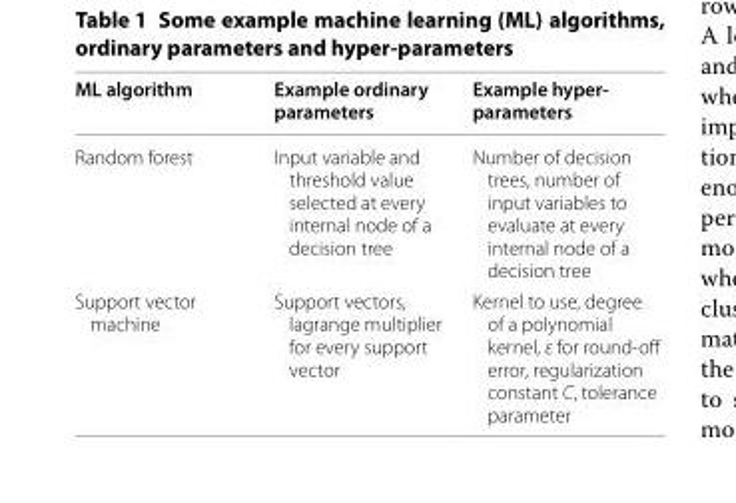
<table><thead><tr><td>ML algorithm</td><td>Example ordinary parameters</td><td>Example hyper‑ parameters</td></tr></thead><tbody><tr><td>Random forest</td><td>Input variable and threshold value selected at every internal node of a decision tree</td><td>Number of decision trees, number of input variables to evaluate at every internal node of a decision tree</td></tr><tr><td>Support vector machine</td><td>Support vectors, lagrange multiplier for every support vector</td><td>Kernel to use, degree of a polynomial kernel, ε for round-off error, regularization constant C, tolerance parameter</td></tr></tbody></table>